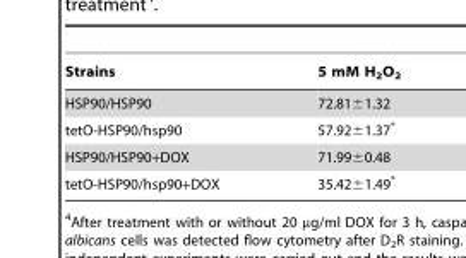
<table><thead><tr><td>Strains</td><td>5 mM H<sub>2</sub>O<sub>2</sub></td></tr></thead><tbody><tr><td>HSP90/HSP90</td><td>72.81±1.32</td></tr><tr><td>tetO-HSP90/hsp90</td><td>57.92±1.37*</td></tr><tr><td>HSP90/HSP90+DOX</td><td>71.99±0.48</td></tr><tr><td>tetO-HSP90/hsp90+DOX</td><td>35.42±1.49*</td></tr></tbody></table>